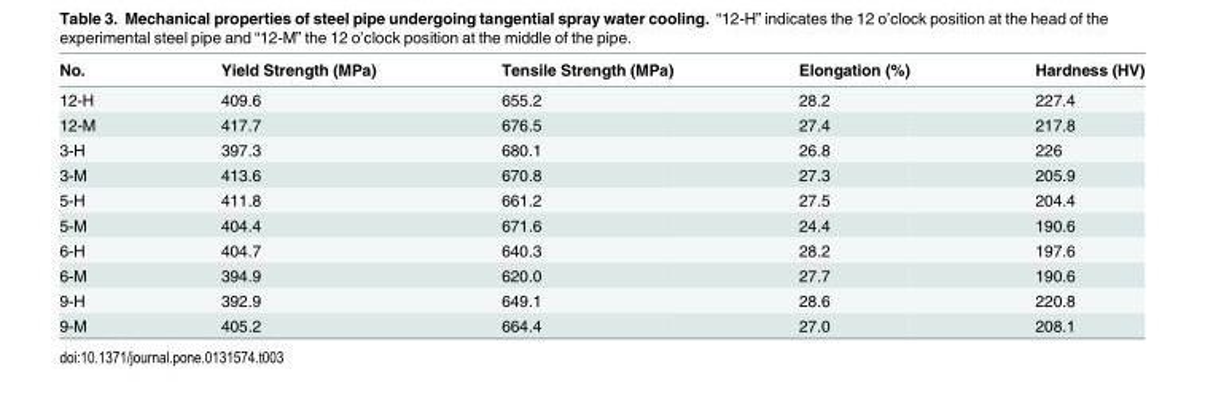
<table><thead><tr><td>No.</td><td>Yield Strength (MPa)</td><td>Tensile Strength (MPa)</td><td>Elongation (%)</td><td>Hardness (HV)</td></tr></thead><tbody><tr><td>12-H</td><td>409.6</td><td>655.2</td><td>28.2</td><td>227.4</td></tr><tr><td>12-M</td><td>417.7</td><td>676.5</td><td>27.4</td><td>217.8</td></tr><tr><td>3-H</td><td>397.3</td><td>680.1</td><td>26.8</td><td>226</td></tr><tr><td>3-M</td><td>413.6</td><td>670.8</td><td>27.3</td><td>205.9</td></tr><tr><td>5-H</td><td>411.8</td><td>661.2</td><td>27.5</td><td>204.4</td></tr><tr><td>5-M</td><td>404.4</td><td>671.6</td><td>24.4</td><td>190.6</td></tr><tr><td>6-H</td><td>404.7</td><td>640.3</td><td>28.2</td><td>197.6</td></tr><tr><td>6-M</td><td>394.9</td><td>620.0</td><td>27.7</td><td>190.6</td></tr><tr><td>9-H</td><td>392.9</td><td>649.1</td><td>28.6</td><td>220.8</td></tr><tr><td>9-M</td><td>405.2</td><td>664.4</td><td>27.0</td><td>208.1</td></tr></tbody></table>